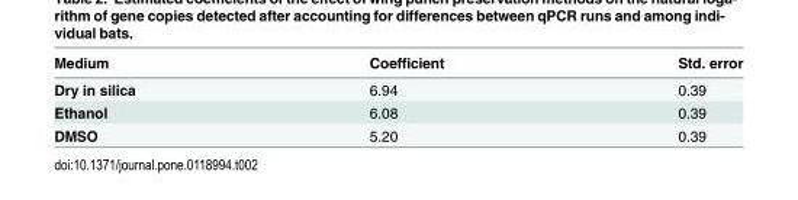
<table><thead><tr><td>Medium</td><td>Coefficient</td><td>Std. error</td></tr></thead><tbody><tr><td>Dry in silica</td><td>6.94</td><td>0.39</td></tr><tr><td>Ethanol</td><td>6.08</td><td>0.39</td></tr><tr><td>DMSO</td><td>5.20</td><td>0.39</td></tr></tbody></table>